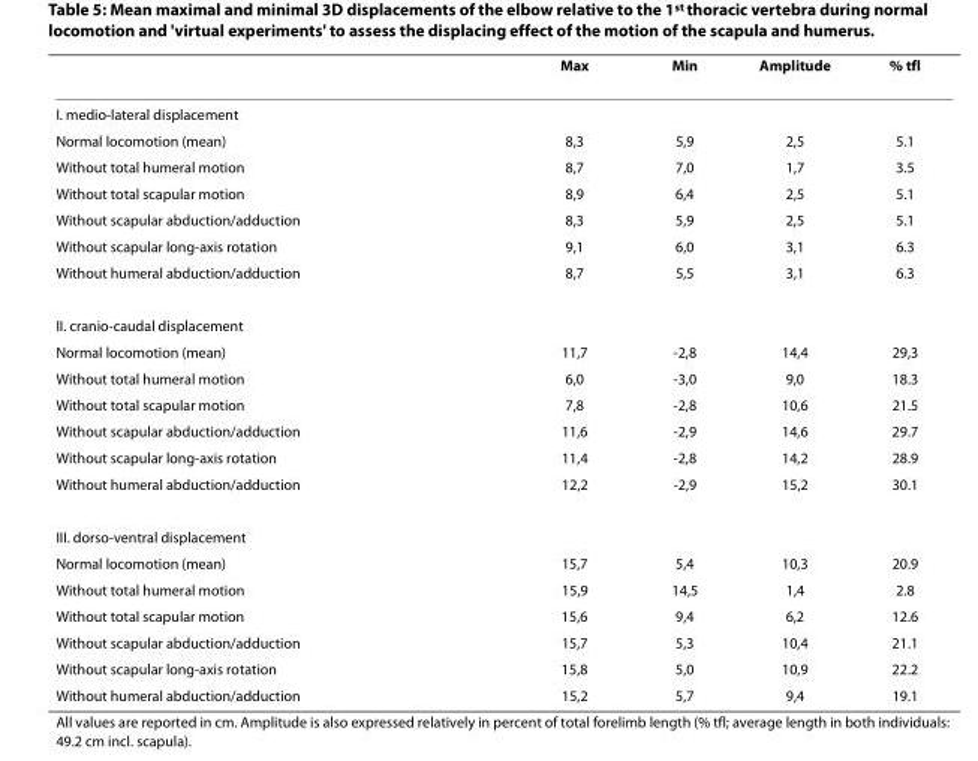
<table><thead><tr><td></td><td>Max</td><td>Min</td><td>Amplitude</td><td>% tfl</td></tr></thead><tbody><tr><td colspan="5">I. medio-lateral displacement</td></tr><tr><td>Normal locomotion (mean)</td><td>8,3</td><td>5,9</td><td>2,5</td><td>5.1</td></tr><tr><td>Without total humeral motion</td><td>8,7</td><td>7,0</td><td>1,7</td><td>3.5</td></tr><tr><td>Without total scapular motion</td><td>8,9</td><td>6,4</td><td>2,5</td><td>5.1</td></tr><tr><td>Without scapular abduction/adduction</td><td>8,3</td><td>5,9</td><td>2,5</td><td>5.1</td></tr><tr><td>Without scapular long-axis rotation</td><td>9,1</td><td>6,0</td><td>3,1</td><td>6.3</td></tr><tr><td>Without humeral abduction/adduction</td><td>8,7</td><td>5,5</td><td>3,1</td><td>6.3</td></tr><tr><td colspan="5">II. cranio-caudal displacement</td></tr><tr><td>Normal locomotion (mean)</td><td>11,7</td><td>-2,8</td><td>14,4</td><td>29,3</td></tr><tr><td>Without total humeral motion</td><td>6,0</td><td>-3,0</td><td>9,0</td><td>18.3</td></tr><tr><td>Without total scapular motion</td><td>7,8</td><td>-2,8</td><td>10,6</td><td>21.5</td></tr><tr><td>Without scapular abduction/adduction</td><td>11,6</td><td>-2,9</td><td>14,6</td><td>29.7</td></tr><tr><td>Without scapular long-axis rotation</td><td>11,4</td><td>-2,8</td><td>14,2</td><td>28.9</td></tr><tr><td>Without humeral abduction/adduction</td><td>12,2</td><td>-2,9</td><td>15,2</td><td>30.1</td></tr><tr><td colspan="5">III. dorso-ventral displacement</td></tr><tr><td>Normal locomotion (mean)</td><td>15,7</td><td>5,4</td><td>10,3</td><td>20.9</td></tr><tr><td>Without total humeral motion</td><td>15,9</td><td>14,5</td><td>1,4</td><td>2.8</td></tr><tr><td>Without total scapular motion</td><td>15,6</td><td>9,4</td><td>6,2</td><td>12.6</td></tr><tr><td>Without scapular abduction/adduction</td><td>15,7</td><td>5,3</td><td>10,4</td><td>21.1</td></tr><tr><td>Without scapular long-axis rotation</td><td>15,8</td><td>5,0</td><td>10,9</td><td>22.2</td></tr><tr><td>Without humeral abduction/adduction</td><td>15,2</td><td>5,7</td><td>9,4</td><td>19.1</td></tr></tbody></table>